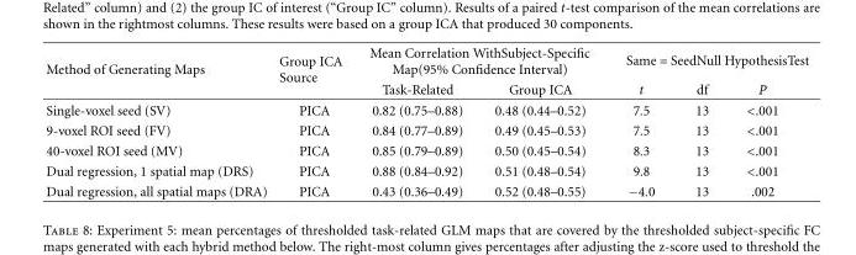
<table><thead><tr><td rowspan="2">Method of Generating Maps</td><td rowspan="2">Group ICA Source</td><td colspan="2">Mean Correlation WithSubject-Specific Map(95% Confidence Interval)</td><td colspan="3">Same = SeedNull HypothesisTest</td></tr><tr><td>Task-Related</td><td>Group ICA</td><td>t</td><td>df</td><td>P</td></tr></thead><tbody><tr><td>Single-voxel seed (SV)</td><td>PICA</td><td>0.82 (0.75–0.88)</td><td>0.48 (0.44–0.52)</td><td>7.5</td><td>13</td><td>&lt;.001</td></tr><tr><td>9-voxel ROI seed (FV)</td><td>PICA</td><td>0.84 (0.77–0.89)</td><td>0.49 (0.45–0.53)</td><td>7.5</td><td>13</td><td>&lt;.001</td></tr><tr><td>40-voxel ROI seed (MV)</td><td>PICA</td><td>0.85 (0.79–0.89)</td><td>0.50 (0.45–0.54)</td><td>8.3</td><td>13</td><td>&lt;.001</td></tr><tr><td>Dual regression, 1 spatial map (DRS)</td><td>PICA</td><td>0.88 (0.84–0.92)</td><td>0.51 (0.48–0.54)</td><td>9.8</td><td>13</td><td>&lt;.001</td></tr><tr><td>Dual regression, all spatial maps (DRA)</td><td>PICA</td><td>0.43 (0.36–0.49)</td><td>0.52 (0.48–0.55)</td><td>−4.0</td><td>13</td><td>.002</td></tr></tbody></table>